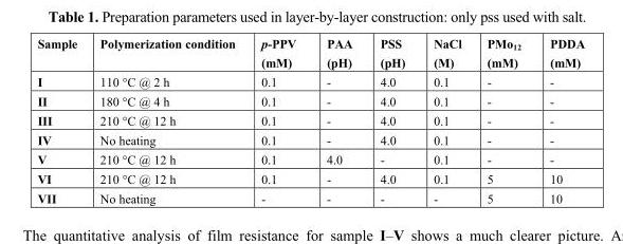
<table><thead><tr><td>Sample</td><td>Polymerization condition</td><td>p-PPV (mM)</td><td>PAA (pH)</td><td>PSS (pH)</td><td>NaCl (M)</td><td>PMo<sub>12</sub> (mM)</td><td>PDDA (mM)</td></tr></thead><tbody><tr><td>I</td><td>110 °C @ 2 h</td><td>0.1</td><td>-</td><td>4.0</td><td>0.1</td><td>-</td><td>-</td></tr><tr><td>II</td><td>180 °C @ 4 h</td><td>0.1</td><td>-</td><td>4.0</td><td>0.1</td><td>-</td><td>-</td></tr><tr><td>III</td><td>210 °C @ 12 h</td><td>0.1</td><td>-</td><td>4.0</td><td>0.1</td><td>-</td><td>-</td></tr><tr><td>IV</td><td>No heating</td><td>0.1</td><td>-</td><td>4.0</td><td>0.1</td><td>-</td><td>-</td></tr><tr><td>V</td><td>210 °C @ 12 h</td><td>0.1</td><td>4.0</td><td>-</td><td>0.1</td><td>-</td><td>-</td></tr><tr><td>VI</td><td>210 °C @ 12 h</td><td>0.1</td><td>-</td><td>4.0</td><td>0.1</td><td>5</td><td>10</td></tr><tr><td>VII</td><td>No heating</td><td>-</td><td>-</td><td>-</td><td>-</td><td>5</td><td>10</td></tr></tbody></table>